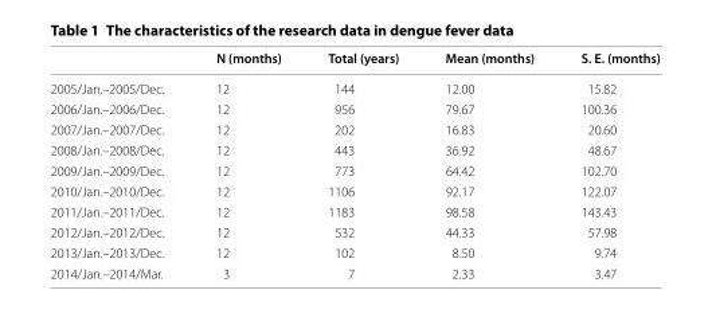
<table><thead><tr><td></td><td>N (months)</td><td>Total (years)</td><td>Mean (months)</td><td>S. E. (months)</td></tr></thead><tbody><tr><td>2005/Jan.–2005/Dec.</td><td>12</td><td>144</td><td>12.00</td><td>15.82</td></tr><tr><td>2006/Jan.–2006/Dec.</td><td>12</td><td>956</td><td>79.67</td><td>100.36</td></tr><tr><td>2007/Jan.–2007/Dec.</td><td>12</td><td>202</td><td>16.83</td><td>20.60</td></tr><tr><td>2008/Jan.–2008/Dec.</td><td>12</td><td>443</td><td>36.92</td><td>48.67</td></tr><tr><td>2009/Jan.–2009/Dec.</td><td>12</td><td>773</td><td>64.42</td><td>102.70</td></tr><tr><td>2010/Jan.–2010/Dec.</td><td>12</td><td>1106</td><td>92.17</td><td>122.07</td></tr><tr><td>2011/Jan.–2011/Dec.</td><td>12</td><td>1183</td><td>98.58</td><td>143.43</td></tr><tr><td>2012/Jan.–2012/Dec.</td><td>12</td><td>532</td><td>44.33</td><td>57.98</td></tr><tr><td>2013/Jan.–2013/Dec.</td><td>12</td><td>102</td><td>8.50</td><td>9.74</td></tr><tr><td>2014/Jan.–2014/Mar.</td><td>3</td><td>7</td><td>2.33</td><td>3.47</td></tr></tbody></table>